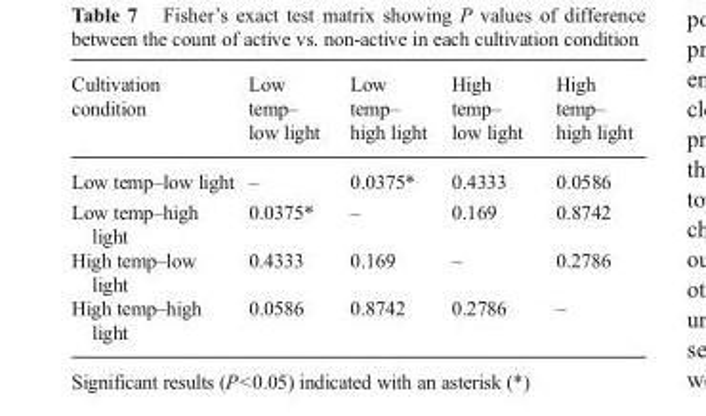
<table><thead><tr><td>Cultivation condition</td><td>Low temp– low light</td><td>Low temp– high light</td><td>High temp– low light</td><td>High temp– high light</td></tr></thead><tbody><tr><td>Low temp–low light</td><td>–</td><td>0.0375*</td><td>0.4333</td><td>0.0586</td></tr><tr><td>Low temp–high light</td><td>0.0375*</td><td>–</td><td>0.169</td><td>0.8742</td></tr><tr><td>High temp–low light</td><td>0.4333</td><td>0.169</td><td>–</td><td>0.2786</td></tr><tr><td>High temp–high light</td><td>0.0586</td><td>0.8742</td><td>0.2786</td><td>–</td></tr></tbody></table>